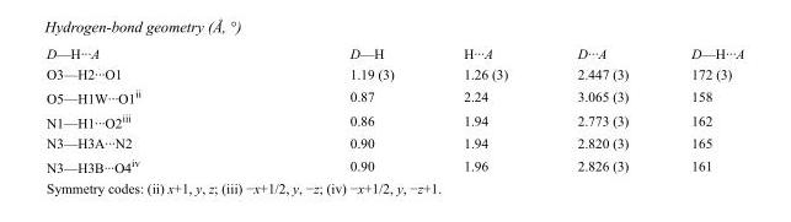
<table><tbody><tr><td>D—H···A</td><td>D—H</td><td>H···A</td><td>D···A</td><td>D—H···A</td></tr><tr><td>O3—H2···O1</td><td>1.19 (3)</td><td>1.26 (3)</td><td>2.447 (3)</td><td>172 (3)</td></tr><tr><td>O5—H1W···O1<sup>ii</sup></td><td>0.87</td><td>2.24</td><td>3.065 (3)</td><td>158</td></tr><tr><td>N1—H1···O2<sup>iii</sup></td><td>0.86</td><td>1.94</td><td>2.773 (3)</td><td>162</td></tr><tr><td>N3—H3A···N2</td><td>0.90</td><td>1.94</td><td>2.820 (3)</td><td>165</td></tr><tr><td>N3—H3B···O4<sup>iv</sup></td><td>0.90</td><td>1.96</td><td>2.826 (3)</td><td>161</td></tr></tbody></table>